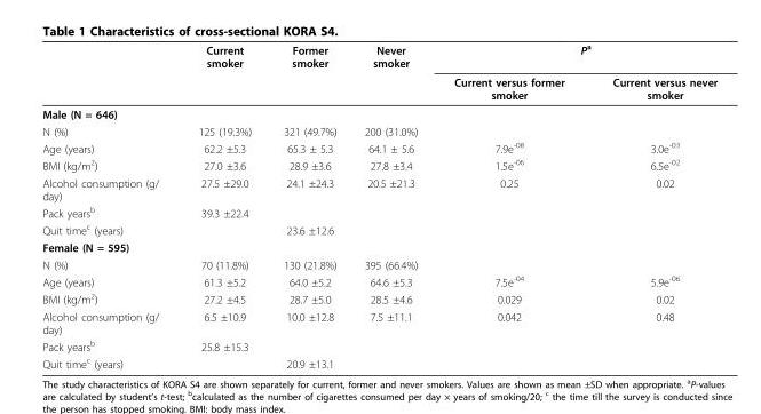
<table><thead><tr><td rowspan="2"></td><td rowspan="2">Current smoker</td><td rowspan="2">Former smoker</td><td rowspan="2">Never smoker</td><td colspan="2">P<sup>a</sup></td></tr><tr><td>Current versus former smoker</td><td>Current versus never smoker</td></tr></thead><tbody><tr><td colspan="6">Male (N = 646)</td></tr><tr><td>N (%)</td><td>125 (19.3%)</td><td>321 (49.7%)</td><td>200 (31.0%)</td><td></td><td></td></tr><tr><td>Age (years)</td><td>62.2 ±5.3</td><td>65.3 ± 5.3</td><td>64.1 ± 5.6</td><td>7.9e<sup>-08</sup></td><td>3.0e<sup>-03</sup></td></tr><tr><td>BMI (kg/m<sup>2</sup>)</td><td>27.0 ±3.6</td><td>28.9 ±3.6</td><td>27.8 ±3.4</td><td>1.5e<sup>-06</sup></td><td>6.5e<sup>-02</sup></td></tr><tr><td>Alcohol consumption (g/ day)</td><td>27.5 ±29.0</td><td>24.1 ±24.3</td><td>20.5 ±21.3</td><td>0.25</td><td>0.02</td></tr><tr><td>Pack years<sup>b</sup></td><td>39.3 ±22.4</td><td></td><td></td><td></td><td></td></tr><tr><td>Quit time<sup>c</sup> (years)</td><td></td><td>23.6 ±12.6</td><td></td><td></td><td></td></tr><tr><td colspan="6">Female (N = 595)</td></tr><tr><td>N (%)</td><td>70 (11.8%)</td><td>130 (21.8%)</td><td>395 (66.4%)</td><td></td><td></td></tr><tr><td>Age (years)</td><td>61.3 ±5.2</td><td>64.0 ±5.2</td><td>64.6 ±5.3</td><td>7.5e<sup>-04</sup></td><td>5.9e<sup>-06</sup></td></tr><tr><td>BMI (kg/m<sup>2</sup>)</td><td>27.2 ±4.5</td><td>28.7 ±5.0</td><td>28.5 ±4.6</td><td>0.029</td><td>0.02</td></tr><tr><td>Alcohol consumption (g/ day)</td><td>6.5 ±10.9</td><td>10.0 ±12.8</td><td>7.5 ±11.1</td><td>0.042</td><td>0.48</td></tr><tr><td>Pack years<sup>b</sup></td><td>25.8 ±15.3</td><td></td><td></td><td></td><td></td></tr><tr><td>Quit time<sup>c</sup> (years)</td><td></td><td>20.9 ±13.1</td><td></td><td></td><td></td></tr></tbody></table>